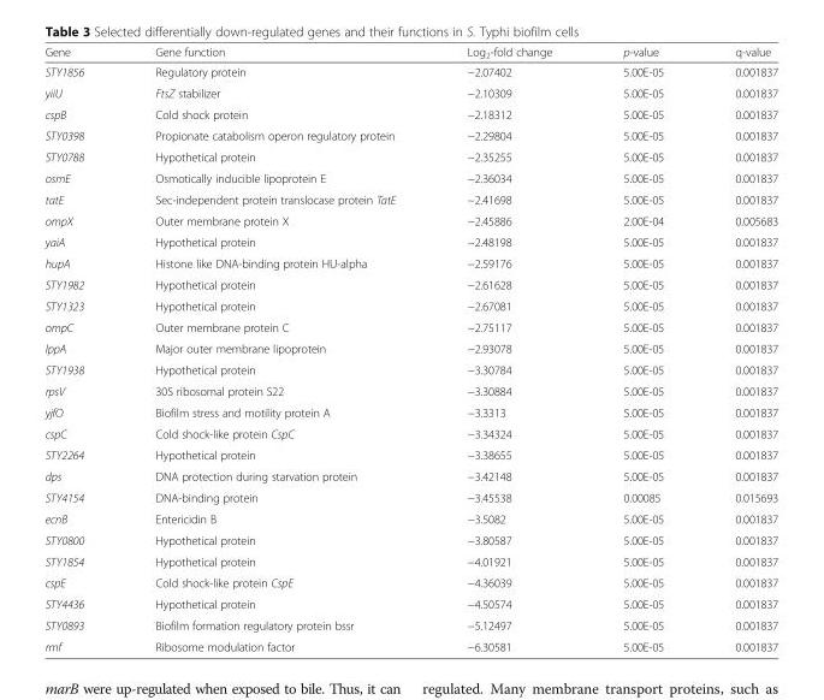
<table><thead><tr><td>Gene</td><td>Gene function</td><td>Log<sub>2</sub>-fold change</td><td>p-value</td><td>q-value</td></tr></thead><tbody><tr><td>STY1856</td><td>Regulatory protein</td><td>−2.07402</td><td>5.00E-05</td><td>0.001837</td></tr><tr><td>yiiU</td><td>FtsZ stabilizer</td><td>−2.10309</td><td>5.00E-05</td><td>0.001837</td></tr><tr><td>cspB</td><td>Cold shock protein</td><td>−2.18312</td><td>5.00E-05</td><td>0.001837</td></tr><tr><td>STY0398</td><td>Propionate catabolism operon regulatory protein</td><td>−2.29804</td><td>5.00E-05</td><td>0.001837</td></tr><tr><td>STY0788</td><td>Hypothetical protein</td><td>−2.35255</td><td>5.00E-05</td><td>0.001837</td></tr><tr><td>osmE</td><td>Osmotically inducible lipoprotein E</td><td>−2.36034</td><td>5.00E-05</td><td>0.001837</td></tr><tr><td>tatE</td><td>Sec-independent protein translocase protein TatE</td><td>−2.41698</td><td>5.00E-05</td><td>0.001837</td></tr><tr><td>ompX</td><td>Outer membrane protein X</td><td>−2.45886</td><td>2.00E-04</td><td>0.005683</td></tr><tr><td>yaiA</td><td>Hypothetical protein</td><td>−2.48198</td><td>5.00E-05</td><td>0.001837</td></tr><tr><td>hupA</td><td>Histone like DNA-binding protein HU-alpha</td><td>−2.59176</td><td>5.00E-05</td><td>0.001837</td></tr><tr><td>STY1982</td><td>Hypothetical protein</td><td>−2.61628</td><td>5.00E-05</td><td>0.001837</td></tr><tr><td>STY1323</td><td>Hypothetical protein</td><td>−2.67081</td><td>5.00E-05</td><td>0.001837</td></tr><tr><td>ompC</td><td>Outer membrane protein C</td><td>−2.75117</td><td>5.00E-05</td><td>0.001837</td></tr><tr><td>lppA</td><td>Major outer membrane lipoprotein</td><td>−2.93078</td><td>5.00E-05</td><td>0.001837</td></tr><tr><td>STY1938</td><td>Hypothetical protein</td><td>−3.30784</td><td>5.00E-05</td><td>0.001837</td></tr><tr><td>rpsV</td><td>30S ribosomal protein S22</td><td>−3.30884</td><td>5.00E-05</td><td>0.001837</td></tr><tr><td>yjfO</td><td>Biofilm stress and motility protein A</td><td>−3.3313</td><td>5.00E-05</td><td>0.001837</td></tr><tr><td>cspC</td><td>Cold shock-like protein CspC</td><td>−3.34324</td><td>5.00E-05</td><td>0.001837</td></tr><tr><td>STY2264</td><td>Hypothetical protein</td><td>−3.38655</td><td>5.00E-05</td><td>0.001837</td></tr><tr><td>dps</td><td>DNA protection during starvation protein</td><td>−3.42148</td><td>5.00E-05</td><td>0.001837</td></tr><tr><td>STY4154</td><td>DNA-binding protein</td><td>−3.45538</td><td>0.00085</td><td>0.015693</td></tr><tr><td>ecnB</td><td>Entericidin B</td><td>−3.5082</td><td>5.00E-05</td><td>0.001837</td></tr><tr><td>STY0800</td><td>Hypothetical protein</td><td>−3.80587</td><td>5.00E-05</td><td>0.001837</td></tr><tr><td>STY1854</td><td>Hypothetical protein</td><td>−4.01921</td><td>5.00E-05</td><td>0.001837</td></tr><tr><td>cspE</td><td>Cold shock-like protein CspE</td><td>−4.36039</td><td>5.00E-05</td><td>0.001837</td></tr><tr><td>STY4436</td><td>Hypothetical protein</td><td>−4.50574</td><td>5.00E-05</td><td>0.001837</td></tr><tr><td>STY0893</td><td>Biofilm formation regulatory protein bssr</td><td>−5.12497</td><td>5.00E-05</td><td>0.001837</td></tr><tr><td>rmf</td><td>Ribosome modulation factor</td><td>−6.30581</td><td>5.00E-05</td><td>0.001837</td></tr></tbody></table>